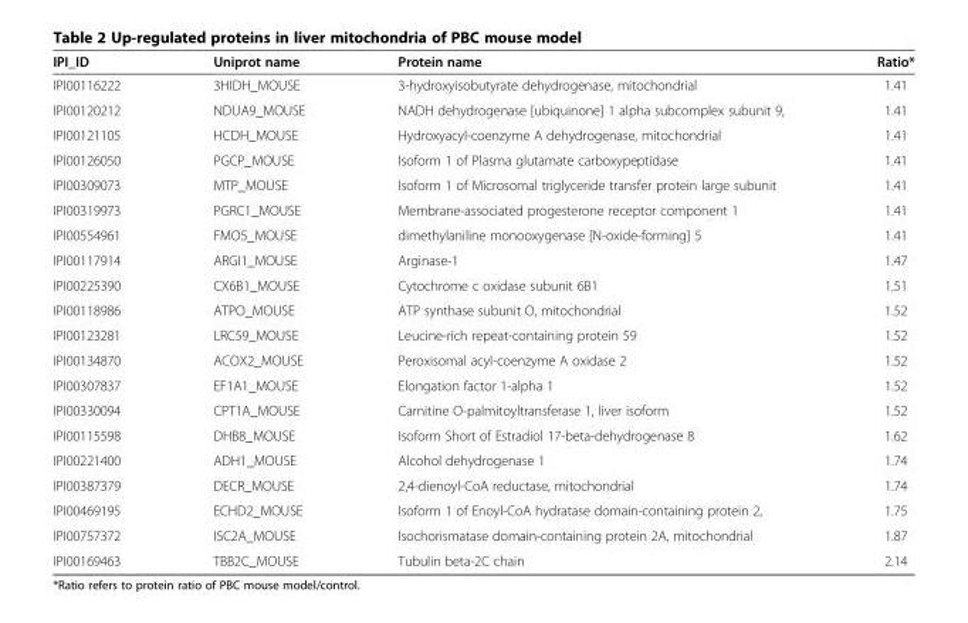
<table><thead><tr><td>IPI_ID</td><td>Uniprot name</td><td>Protein name</td><td>Ratio*</td></tr></thead><tbody><tr><td>IPI00116222</td><td>3HIDH_MOUSE</td><td>3-hydroxyisobutyrate dehydrogenase, mitochondrial</td><td>1.41</td></tr><tr><td>IPI00120212</td><td>NDUA9_MOUSE</td><td>NADH dehydrogenase [ubiquinone] 1 alpha subcomplex subunit 9,</td><td>1.41</td></tr><tr><td>IPI00121105</td><td>HCDH_MOUSE</td><td>Hydroxyacyl-coenzyme A dehydrogenase, mitochondrial</td><td>1.41</td></tr><tr><td>IPI00126050</td><td>PGCP_MOUSE</td><td>Isoform 1 of Plasma glutamate carboxypeptidase</td><td>1.41</td></tr><tr><td>IPI00309073</td><td>MTP_MOUSE</td><td>Isoform 1 of Microsomal triglyceride transfer protein large subunit</td><td>1.41</td></tr><tr><td>IPI00319973</td><td>PGRC1_MOUSE</td><td>Membrane-associated progesterone receptor component 1</td><td>1.41</td></tr><tr><td>IPI00554961</td><td>FMO5_MOUSE</td><td>dimethylaniline monooxygenase [N-oxide-forming] 5</td><td>1.41</td></tr><tr><td>IPI00117914</td><td>ARGI1_MOUSE</td><td>Arginase-1</td><td>1.47</td></tr><tr><td>IPI00225390</td><td>CX6B1_MOUSE</td><td>Cytochrome c oxidase subunit 6B1</td><td>1.51</td></tr><tr><td>IPI00118986</td><td>ATPO_MOUSE</td><td>ATP synthase subunit O, mitochondrial</td><td>1.52</td></tr><tr><td>IPI00123281</td><td>LRC59_MOUSE</td><td>Leucine-rich repeat-containing protein 59</td><td>1.52</td></tr><tr><td>IPI00134870</td><td>ACOX2_MOUSE</td><td>Peroxisomal acyl-coenzyme A oxidase 2</td><td>1.52</td></tr><tr><td>IPI00307837</td><td>EF1A1_MOUSE</td><td>Elongation factor 1-alpha 1</td><td>1.52</td></tr><tr><td>IPI00330094</td><td>CPT1A_MOUSE</td><td>Carnitine O-palmitoyltransferase 1, liver isoform</td><td>1.52</td></tr><tr><td>IPI00115598</td><td>DHB8_MOUSE</td><td>Isoform Short of Estradiol 17-beta-dehydrogenase 8</td><td>1.62</td></tr><tr><td>IPI00221400</td><td>ADH1_MOUSE</td><td>Alcohol dehydrogenase 1</td><td>1.74</td></tr><tr><td>IPI00387379</td><td>DECR_MOUSE</td><td>2,4-dienoyl-CoA reductase, mitochondrial</td><td>1.74</td></tr><tr><td>IPI00469195</td><td>ECHD2_MOUSE</td><td>Isoform 1 of Enoyl-CoA hydratase domain-containing protein 2,</td><td>1.75</td></tr><tr><td>IPI00757372</td><td>ISC2A_MOUSE</td><td>Isochorismatase domain-containing protein 2A, mitochondrial</td><td>1.87</td></tr><tr><td>IPI00169463</td><td>TBB2C_MOUSE</td><td>Tubulin beta-2C chain</td><td>2.14</td></tr></tbody></table>